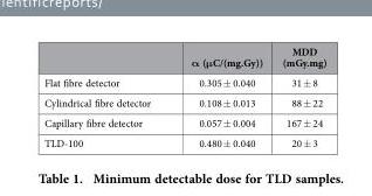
<table><thead><tr><td></td><td>α (μC/(mg.Gy))</td><td>MDD (mGy.mg)</td></tr></thead><tbody><tr><td>Flat fibre detector</td><td>0.305 ± 0.040</td><td>31 ± 8</td></tr><tr><td>Cylindrical fibre detector</td><td>0.108 ± 0.013</td><td>88 ± 22</td></tr><tr><td>Capillary fibre detector</td><td>0.057 ± 0.004</td><td>167 ± 24</td></tr><tr><td>TLD-100</td><td>0.480 ± 0.040</td><td>20 ± 3</td></tr></tbody></table>